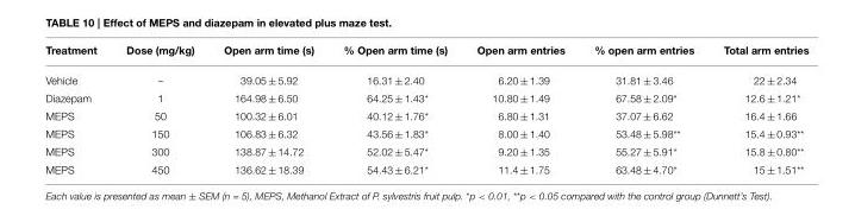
<table><thead><tr><td>Treatment</td><td>Dose (mg/kg)</td><td>Open arm time (s)</td><td>% Open arm time (s)</td><td>Open arm entries</td><td>% open arm entries</td><td>Total arm entries</td></tr></thead><tbody><tr><td>Vehicle</td><td>–</td><td>39.05 ± 5.92</td><td>16.31 ± 2.40</td><td>6.20 ± 1.39</td><td>31.81 ± 3.46</td><td>22 ± 2.34</td></tr><tr><td>Diazepam</td><td>1</td><td>164.98 ± 6.50</td><td>64.25 ± 1.43*</td><td>10.80 ± 1.49</td><td>67.58 ± 2.09*</td><td>12.6 ± 1.21*</td></tr><tr><td>MEPS</td><td>50</td><td>100.32 ± 6.01</td><td>40.12 ± 1.76*</td><td>6.80 ± 1.31</td><td>37.07 ± 6.62</td><td>16.4 ± 1.66</td></tr><tr><td>MEPS</td><td>150</td><td>106.83 ± 6.32</td><td>43.56 ± 1.83*</td><td>8.00 ± 1.40</td><td>53.48 ± 5.98**</td><td>15.4 ± 0.93**</td></tr><tr><td>MEPS</td><td>300</td><td>138.87 ± 14.72</td><td>52.02 ± 5.47*</td><td>9.20 ± 1.35</td><td>55.27 ± 5.91*</td><td>15.8 ± 0.80**</td></tr><tr><td>MEPS</td><td>450</td><td>136.62 ± 18.39</td><td>54.43 ± 6.21*</td><td>11.4 ± 1.75</td><td>63.48 ± 4.70*</td><td>15 ± 1.51**</td></tr></tbody></table>